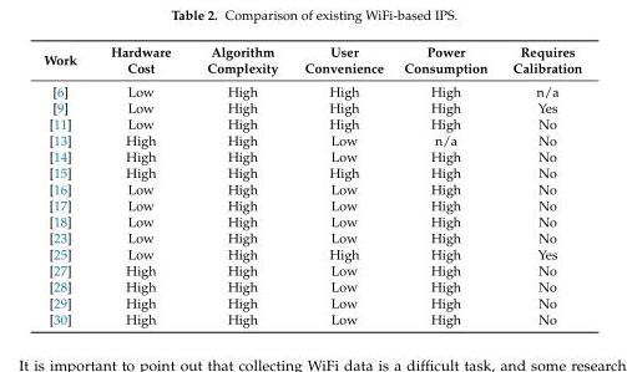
<table><thead><tr><td>Work</td><td>Hardware Cost</td><td>Algorithm Complexity</td><td>User Convenience</td><td>Power Consumption</td><td>Requires Calibration</td></tr></thead><tbody><tr><td>[6]</td><td>Low</td><td>High</td><td>High</td><td>High</td><td>n/a</td></tr><tr><td>[9]</td><td>Low</td><td>High</td><td>High</td><td>High</td><td>Yes</td></tr><tr><td>[11]</td><td>Low</td><td>High</td><td>High</td><td>High</td><td>No</td></tr><tr><td>[13]</td><td>High</td><td>High</td><td>Low</td><td>n/a</td><td>No</td></tr><tr><td>[14]</td><td>High</td><td>High</td><td>Low</td><td>High</td><td>No</td></tr><tr><td>[15]</td><td>High</td><td>High</td><td>High</td><td>High</td><td>No</td></tr><tr><td>[16]</td><td>Low</td><td>High</td><td>Low</td><td>High</td><td>No</td></tr><tr><td>[17]</td><td>Low</td><td>High</td><td>Low</td><td>High</td><td>No</td></tr><tr><td>[18]</td><td>Low</td><td>High</td><td>Low</td><td>High</td><td>No</td></tr><tr><td>[23]</td><td>Low</td><td>High</td><td>Low</td><td>High</td><td>No</td></tr><tr><td>[25]</td><td>Low</td><td>High</td><td>High</td><td>High</td><td>Yes</td></tr><tr><td>[27]</td><td>High</td><td>High</td><td>Low</td><td>High</td><td>No</td></tr><tr><td>[28]</td><td>High</td><td>High</td><td>Low</td><td>High</td><td>No</td></tr><tr><td>[29]</td><td>High</td><td>High</td><td>Low</td><td>High</td><td>No</td></tr><tr><td>[30]</td><td>High</td><td>High</td><td>Low</td><td>High</td><td>No</td></tr></tbody></table>